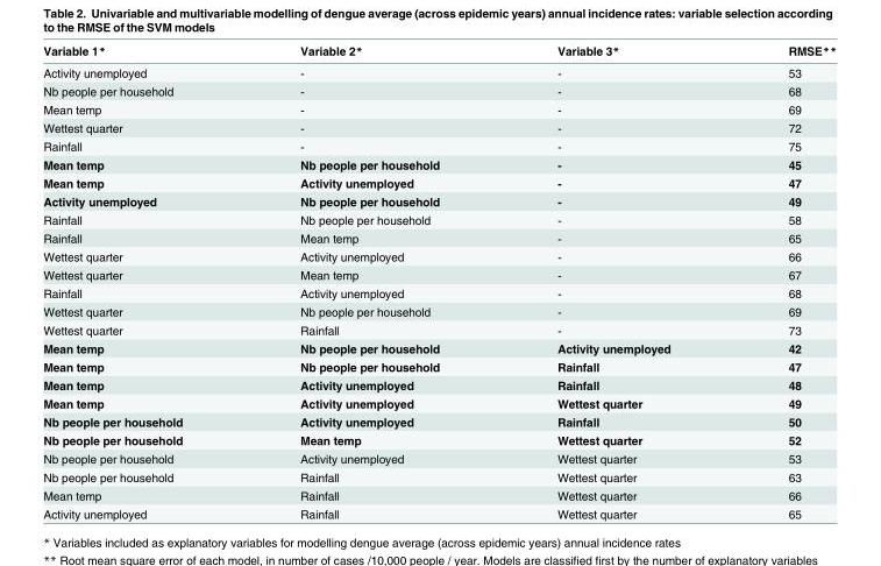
<table><thead><tr><td>Variable 1*</td><td>Variable 2*</td><td>Variable 3*</td><td>RMSE**</td></tr></thead><tbody><tr><td>Activity unemployed</td><td>-</td><td>-</td><td>53</td></tr><tr><td>Nb people per household</td><td>-</td><td>-</td><td>68</td></tr><tr><td>Mean temp</td><td>-</td><td>-</td><td>69</td></tr><tr><td>Wettest quarter</td><td>-</td><td>-</td><td>72</td></tr><tr><td>Rainfall</td><td>-</td><td>-</td><td>75</td></tr><tr><td>Mean temp</td><td>Nb people per household</td><td>-</td><td>45</td></tr><tr><td>Mean temp</td><td>Activity unemployed</td><td>-</td><td>47</td></tr><tr><td>Activity unemployed</td><td>Nb people per household</td><td>-</td><td>49</td></tr><tr><td>Rainfall</td><td>Nb people per household</td><td>-</td><td>58</td></tr><tr><td>Rainfall</td><td>Mean temp</td><td>-</td><td>65</td></tr><tr><td>Wettest quarter</td><td>Activity unemployed</td><td>-</td><td>66</td></tr><tr><td>Wettest quarter</td><td>Mean temp</td><td>-</td><td>67</td></tr><tr><td>Rainfall</td><td>Activity unemployed</td><td>-</td><td>68</td></tr><tr><td>Wettest quarter</td><td>Nb people per household</td><td>-</td><td>69</td></tr><tr><td>Wettest quarter</td><td>Rainfall</td><td>-</td><td>73</td></tr><tr><td>Mean temp</td><td>Nb people per household</td><td>Activity unemployed</td><td>42</td></tr><tr><td>Mean temp</td><td>Nb people per household</td><td>Rainfall</td><td>47</td></tr><tr><td>Mean temp</td><td>Activity unemployed</td><td>Rainfall</td><td>48</td></tr><tr><td>Mean temp</td><td>Activity unemployed</td><td>Wettest quarter</td><td>49</td></tr><tr><td>Nb people per household</td><td>Activity unemployed</td><td>Rainfall</td><td>50</td></tr><tr><td>Nb people per household</td><td>Mean temp</td><td>Wettest quarter</td><td>52</td></tr><tr><td>Nb people per household</td><td>Activity unemployed</td><td>Wettest quarter</td><td>53</td></tr><tr><td>Nb people per household</td><td>Rainfall</td><td>Wettest quarter</td><td>63</td></tr><tr><td>Mean temp</td><td>Rainfall</td><td>Wettest quarter</td><td>66</td></tr><tr><td>Activity unemployed</td><td>Rainfall</td><td>Wettest quarter</td><td>65</td></tr></tbody></table>